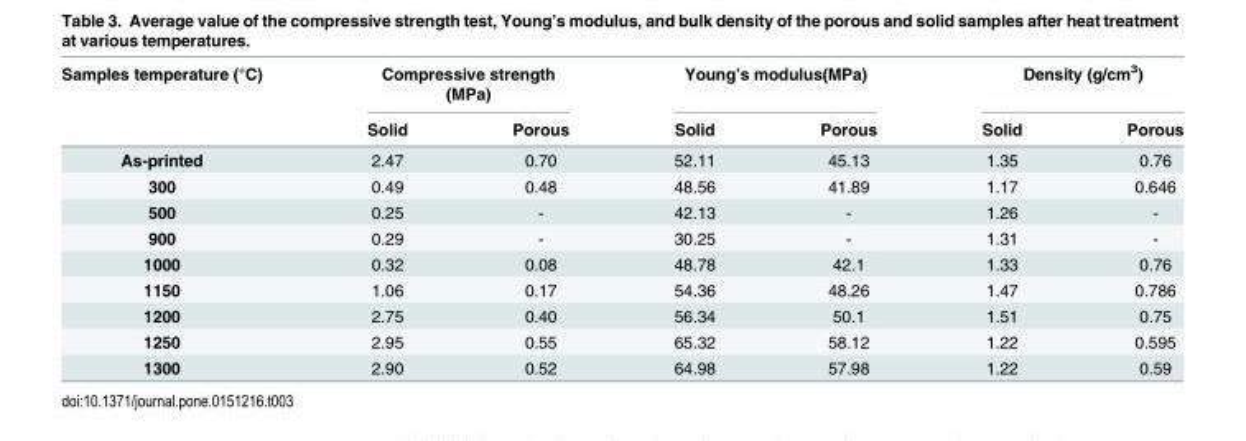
<table><thead><tr><td rowspan="2">Samples temperature (°C)</td><td colspan="2">Compressive strength (MPa)</td><td colspan="2">Young’s modulus(MPa)</td><td colspan="2">Density (g/cm<sup>3</sup>)</td></tr><tr><td>Solid</td><td>Porous</td><td>Solid</td><td>Porous</td><td>Solid</td><td>Porous</td></tr></thead><tbody><tr><td>As-printed</td><td>2.47</td><td>0.70</td><td>52.11</td><td>45.13</td><td>1.35</td><td>0.76</td></tr><tr><td>300</td><td>0.49</td><td>0.48</td><td>48.56</td><td>41.89</td><td>1.17</td><td>0.646</td></tr><tr><td>500</td><td>0.25</td><td>-</td><td>42.13</td><td>-</td><td>1.26</td><td>-</td></tr><tr><td>900</td><td>0.29</td><td>-</td><td>30.25</td><td>-</td><td>1.31</td><td>-</td></tr><tr><td>1000</td><td>0.32</td><td>0.08</td><td>48.78</td><td>42.1</td><td>1.33</td><td>0.76</td></tr><tr><td>1150</td><td>1.06</td><td>0.17</td><td>54.36</td><td>48.26</td><td>1.47</td><td>0.786</td></tr><tr><td>1200</td><td>2.75</td><td>0.40</td><td>56.34</td><td>50.1</td><td>1.51</td><td>0.75</td></tr><tr><td>1250</td><td>2.95</td><td>0.55</td><td>65.32</td><td>58.12</td><td>1.22</td><td>0.595</td></tr><tr><td>1300</td><td>2.90</td><td>0.52</td><td>64.98</td><td>57.98</td><td>1.22</td><td>0.59</td></tr></tbody></table>